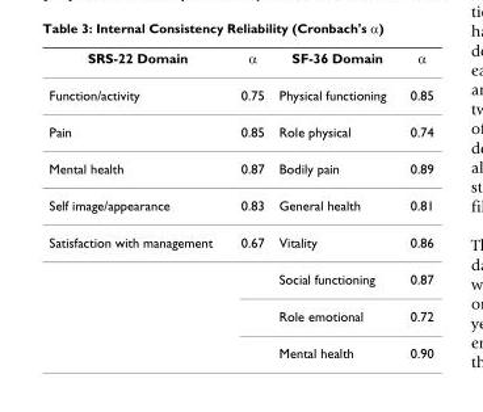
<table><thead><tr><td>SRS-22 Domain</td><td>α</td><td>SF-36 Domain</td><td>α</td></tr></thead><tbody><tr><td>Function/activity</td><td>0.75</td><td>Physical functioning</td><td>0.85</td></tr><tr><td>Pain</td><td>0.85</td><td>Role physical</td><td>0.74</td></tr><tr><td>Mental health</td><td>0.87</td><td>Bodily pain</td><td>0.89</td></tr><tr><td>Self image/appearance</td><td>0.83</td><td>General health</td><td>0.81</td></tr><tr><td rowspan="4">Satisfaction with management</td><td>0.67</td><td>Vitality</td><td>0.86</td></tr><tr><td></td><td>Social functioning</td><td>0.87</td></tr><tr><td></td><td>Role emotional</td><td>0.72</td></tr><tr><td></td><td>Mental health</td><td>0.90</td></tr></tbody></table>